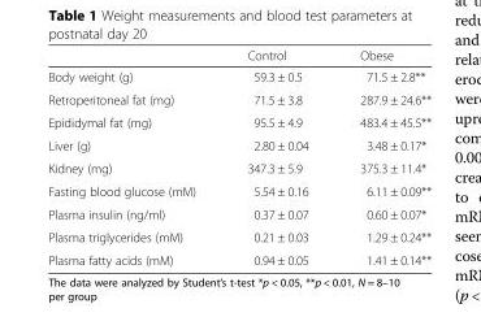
<table><thead><tr><td></td><td>Control</td><td>Obese</td></tr></thead><tbody><tr><td>Body weight (g)</td><td>59.3 ± 0.5</td><td>71.5 ± 2.8**</td></tr><tr><td>Retroperitoneal fat (mg)</td><td>71.5 ± 3.8</td><td>287.9 ± 24.6**</td></tr><tr><td>Epididymal fat (mg)</td><td>95.5 ± 4.9</td><td>483.4 ± 45.5**</td></tr><tr><td>Liver (g)</td><td>2.80 ± 0.04</td><td>3.48 ± 0.17*</td></tr><tr><td>Kidney (mg)</td><td>347.3 ± 5.9</td><td>375.3 ± 11.4*</td></tr><tr><td>Fasting blood glucose (mM)</td><td>5.54 ± 0.16</td><td>6.11 ± 0.09**</td></tr><tr><td>Plasma insulin (ng/ml)</td><td>0.37 ± 0.07</td><td>0.60 ± 0.07*</td></tr><tr><td>Plasma triglycerides (mM)</td><td>0.21 ± 0.03</td><td>1.29 ± 0.24**</td></tr><tr><td>Plasma fatty acids (mM)</td><td>0.94 ± 0.05</td><td>1.41 ± 0.14**</td></tr></tbody></table>